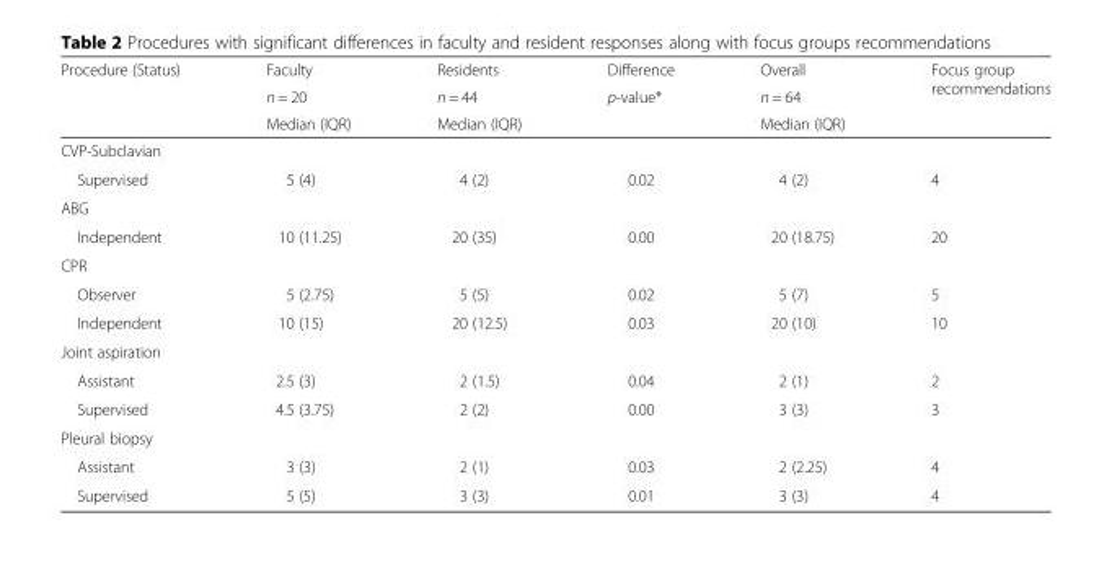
<table><thead><tr><td rowspan="3">Procedure (Status)</td><td rowspan="3">Faculty n = 20 Median (IQR)</td><td rowspan="3">Residents n = 44 Median (IQR)</td><td rowspan="3">Difference p-value*</td><td rowspan="3">Overall n = 64 Median (IQR)</td><td rowspan="3">Focus group recommendations</td></tr><tr></tr><tr></tr></thead><tbody><tr><td colspan="6">CVP-Subclavian</td></tr><tr><td>Supervised</td><td>5 (4)</td><td>4 (2)</td><td>0.02</td><td>4 (2)</td><td>4</td></tr><tr><td colspan="6">ABG</td></tr><tr><td>Independent</td><td>10 (11.25)</td><td>20 (35)</td><td>0.00</td><td>20 (18.75)</td><td>20</td></tr><tr><td colspan="6">CPR</td></tr><tr><td>Observer</td><td>5 (2.75)</td><td>5 (5)</td><td>0.02</td><td>5 (7)</td><td>5</td></tr><tr><td>Independent</td><td>10 (15)</td><td>20 (12.5)</td><td>0.03</td><td>20 (10)</td><td>10</td></tr><tr><td colspan="6">Joint aspiration</td></tr><tr><td>Assistant</td><td>2.5 (3)</td><td>2 (1.5)</td><td>0.04</td><td>2 (1)</td><td>2</td></tr><tr><td>Supervised</td><td>4.5 (3.75)</td><td>2 (2)</td><td>0.00</td><td>3 (3)</td><td>3</td></tr><tr><td colspan="6">Pleural biopsy</td></tr><tr><td>Assistant</td><td>3 (3)</td><td>2 (1)</td><td>0.03</td><td>2 (2.25)</td><td>4</td></tr><tr><td>Supervised</td><td>5 (5)</td><td>3 (3)</td><td>0.01</td><td>3 (3)</td><td>4</td></tr></tbody></table>